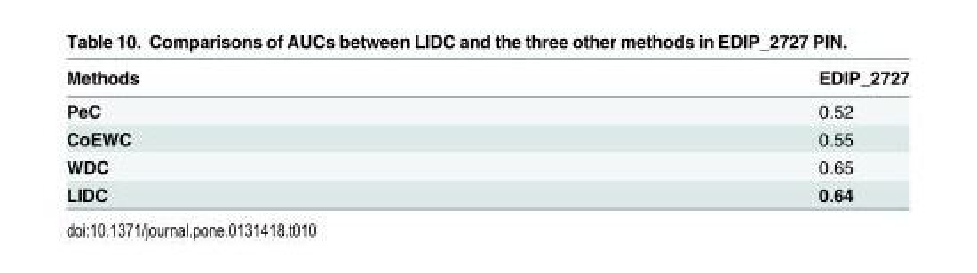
<table><thead><tr><td>Methods</td><td>EDIP_2727</td></tr></thead><tbody><tr><td>PeC</td><td>0.52</td></tr><tr><td>CoEWC</td><td>0.55</td></tr><tr><td>WDC</td><td>0.65</td></tr><tr><td>LIDC</td><td>0.64</td></tr></tbody></table>